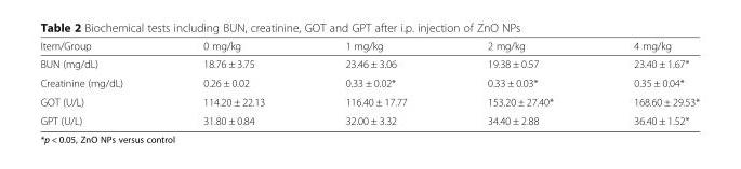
<table><thead><tr><td>Item/Group</td><td>0 mg/kg</td><td>1 mg/kg</td><td>2 mg/kg</td><td>4 mg/kg</td></tr></thead><tbody><tr><td>BUN (mg/dL)</td><td>18.76 ± 3.75</td><td>23.46 ± 3.06</td><td>19.38 ± 0.57</td><td>23.40 ± 1.67*</td></tr><tr><td>Creatinine (mg/dL)</td><td>0.26 ± 0.02</td><td>0.33 ± 0.02*</td><td>0.33 ± 0.03*</td><td>0.35 ± 0.04*</td></tr><tr><td>GOT (U/L)</td><td>114.20 ± 22.13</td><td>116.40 ± 17.77</td><td>153.20 ± 27.40*</td><td>168.60 ± 29.53*</td></tr><tr><td>GPT (U/L)</td><td>31.80 ± 0.84</td><td>32.00 ± 3.32</td><td>34.40 ± 2.88</td><td>36.40 ± 1.52*</td></tr></tbody></table>